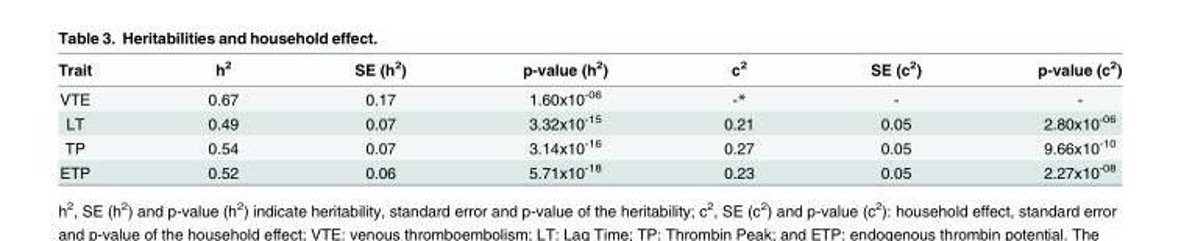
<table><thead><tr><td>Trait</td><td>h<sup>2</sup></td><td>SE (h<sup>2</sup>)</td><td>p-value (h<sup>2</sup>)</td><td>c<sup>2</sup></td><td>SE (c<sup>2</sup>)</td><td>p-value (c<sup>2</sup>)</td></tr></thead><tbody><tr><td>VTE</td><td>0.67</td><td>0.17</td><td>1.60x10<sup>-06</sup></td><td>-*</td><td>-</td><td>-</td></tr><tr><td>LT</td><td>0.49</td><td>0.07</td><td>3.32x10<sup>-15</sup></td><td>0.21</td><td>0.05</td><td>2.80x10<sup>-06</sup></td></tr><tr><td>TP</td><td>0.54</td><td>0.07</td><td>3.14x10<sup>-16</sup></td><td>0.27</td><td>0.05</td><td>9.66x10<sup>-10</sup></td></tr><tr><td>ETP</td><td>0.52</td><td>0.06</td><td>5.71x10<sup>-18</sup></td><td>0.23</td><td>0.05</td><td>2.27x10<sup>-08</sup></td></tr></tbody></table>